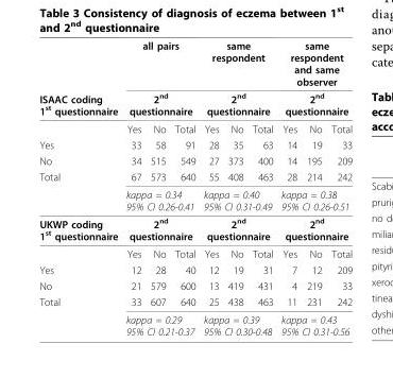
<table><thead><tr><td rowspan="7">ISAAC coding 1<sup>st</sup> questionnaire Yes No Total</td><td rowspan="2" colspan="3">all pairs 2nd questionnaire</td><td rowspan="2" colspan="3">same respondent 2nd questionnaire</td><td rowspan="2" colspan="3">same respondent and same observer 2nd questionnaire</td></tr><tr></tr><tr><td rowspan="4">Yes 33 34 67</td><td rowspan="4">No 58 515 573</td><td rowspan="4">Total 91 549 640</td><td rowspan="4">Yes 28 27 55</td><td rowspan="4">No 35 373 408</td><td rowspan="4">Total 63 400 463</td><td rowspan="4">Yes 14 14 28</td><td rowspan="4">No 19 195 214</td><td rowspan="4">Total 33 209 242</td></tr><tr></tr><tr></tr><tr></tr><tr><td colspan="3">kappa = 0.34 95% CI 0.26-0.41</td><td colspan="3">kappa = 0.40 95% CI 0.31-0.49</td><td colspan="3">kappa = 0.38 95% CI 0.26-0.51</td></tr></thead><tbody><tr><td rowspan="2">UKWP coding 1<sup>st</sup> questionnaire</td><td colspan="3">2nd questionnaire</td><td colspan="3">2nd questionnaire</td><td colspan="3">2nd questionnaire</td></tr><tr><td>Yes</td><td>No</td><td>Total</td><td>Yes</td><td>No</td><td>Total</td><td>Yes</td><td>No</td><td>Total</td></tr><tr><td>Yes</td><td>12</td><td>28</td><td>40</td><td>12</td><td>19</td><td>31</td><td>7</td><td>12</td><td>209</td></tr><tr><td>No</td><td>21</td><td>579</td><td>600</td><td>13</td><td>419</td><td>431</td><td>4</td><td>219</td><td>33</td></tr><tr><td rowspan="2">Total</td><td>33</td><td>607</td><td>640</td><td>25</td><td>438</td><td>463</td><td>11</td><td>231</td><td>242</td></tr><tr><td colspan="3">kappa = 0.29 95% CI 0.21-0.37</td><td colspan="3">kappa = 0.39 95% CI 0.30-0.48</td><td colspan="3">kappa = 0.43 95% CI 0.31-0.56</td></tr></tbody></table>